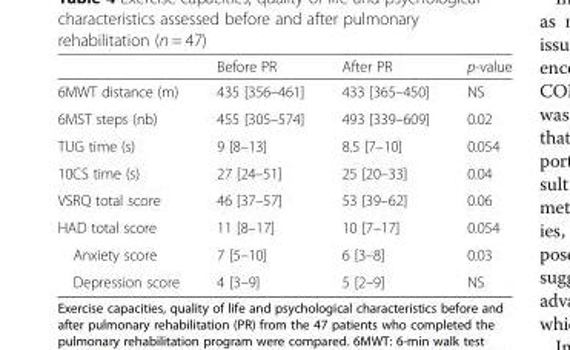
<table><thead><tr><td></td><td>Before PR</td><td>After PR</td><td>p-value</td></tr></thead><tbody><tr><td>6MWT distance (m)</td><td>435 [356–461]</td><td>433 [365–450]</td><td>NS</td></tr><tr><td>6MST steps (nb)</td><td>455 [305–574]</td><td>493 [339–609]</td><td>0.02</td></tr><tr><td>TUG time (s)</td><td>9 [8–13]</td><td>8.5 [7–10]</td><td>0.054</td></tr><tr><td>10CS time (s)</td><td>27 [24–51]</td><td>25 [20–33]</td><td>0.04</td></tr><tr><td>VSRQ total score</td><td>46 [37–57]</td><td>53 [39–62]</td><td>0.06</td></tr><tr><td>HAD total score</td><td>11 [8–17]</td><td>10 [7–17]</td><td>0.054</td></tr><tr><td>Anxiety score</td><td>7 [5–10]</td><td>6 [3–8]</td><td>0.03</td></tr><tr><td>Depression score</td><td>4 [3–9]</td><td>5 [2–9]</td><td>NS</td></tr></tbody></table>